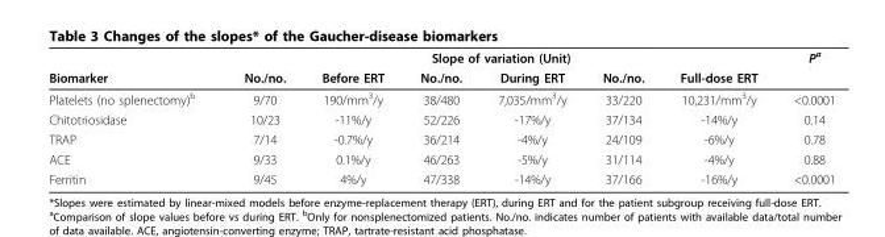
<table><thead><tr><td rowspan="2">Biomarker</td><td colspan="6">Slope of variation (Unit)</td><td rowspan="2">P<sup>a</sup></td></tr><tr><td>No./no.</td><td>Before ERT</td><td>No./no.</td><td>During ERT</td><td>No./no.</td><td>Full-dose ERT</td></tr></thead><tbody><tr><td>Platelets (no splenectomy)<sup>b</sup></td><td>9/70</td><td>190/mm<sup>3</sup>/y</td><td>38/480</td><td>7,035/mm<sup>3</sup>/y</td><td>33/220</td><td>10,231/mm<sup>3</sup>/y</td><td>&lt;0.0001</td></tr><tr><td>Chitotriosidase</td><td>10/23</td><td>-11%/y</td><td>52/226</td><td>-17%/y</td><td>37/134</td><td>-14%/y</td><td>0.14</td></tr><tr><td>TRAP</td><td>7/14</td><td>-0.7%/y</td><td>36/214</td><td>-4%/y</td><td>24/109</td><td>-6%/y</td><td>0.78</td></tr><tr><td>ACE</td><td>9/33</td><td>0.1%/y</td><td>46/263</td><td>-5%/y</td><td>31/114</td><td>-4%/y</td><td>0.88</td></tr><tr><td>Ferritin</td><td>9/45</td><td>4%/y</td><td>47/338</td><td>-14%/y</td><td>37/166</td><td>-16%/y</td><td>&lt;0.0001</td></tr></tbody></table>